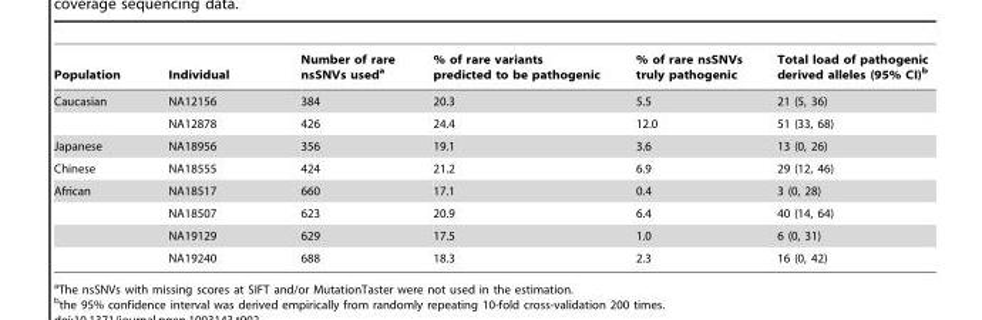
<table><thead><tr><td>Population</td><td>Individual</td><td>Number of rare nsSNVs used<sup>a</sup></td><td>% of rare variants predicted to be pathogenic</td><td>% of rare nsSNVs truly pathogenic</td><td>Total load of pathogenic derived alleles (95% CI)<sup>b</sup></td></tr></thead><tbody><tr><td rowspan="2">Caucasian</td><td>NA12156</td><td>384</td><td>20.3</td><td>5.5</td><td>21 (5, 36)</td></tr><tr><td>NA12878</td><td>426</td><td>24.4</td><td>12.0</td><td>51 (33, 68)</td></tr><tr><td>Japanese</td><td>NA18956</td><td>356</td><td>19.1</td><td>3.6</td><td>13 (0, 26)</td></tr><tr><td>Chinese</td><td>NA18555</td><td>424</td><td>21.2</td><td>6.9</td><td>29 (12, 46)</td></tr><tr><td rowspan="4">African</td><td>NA18517</td><td>660</td><td>17.1</td><td>0.4</td><td>3 (0, 28)</td></tr><tr><td>NA18507</td><td>623</td><td>20.9</td><td>6.4</td><td>40 (14, 64)</td></tr><tr><td>NA19129</td><td>629</td><td>17.5</td><td>1.0</td><td>6 (0, 31)</td></tr><tr><td>NA19240</td><td>688</td><td>18.3</td><td>2.3</td><td>16 (0, 42)</td></tr></tbody></table>